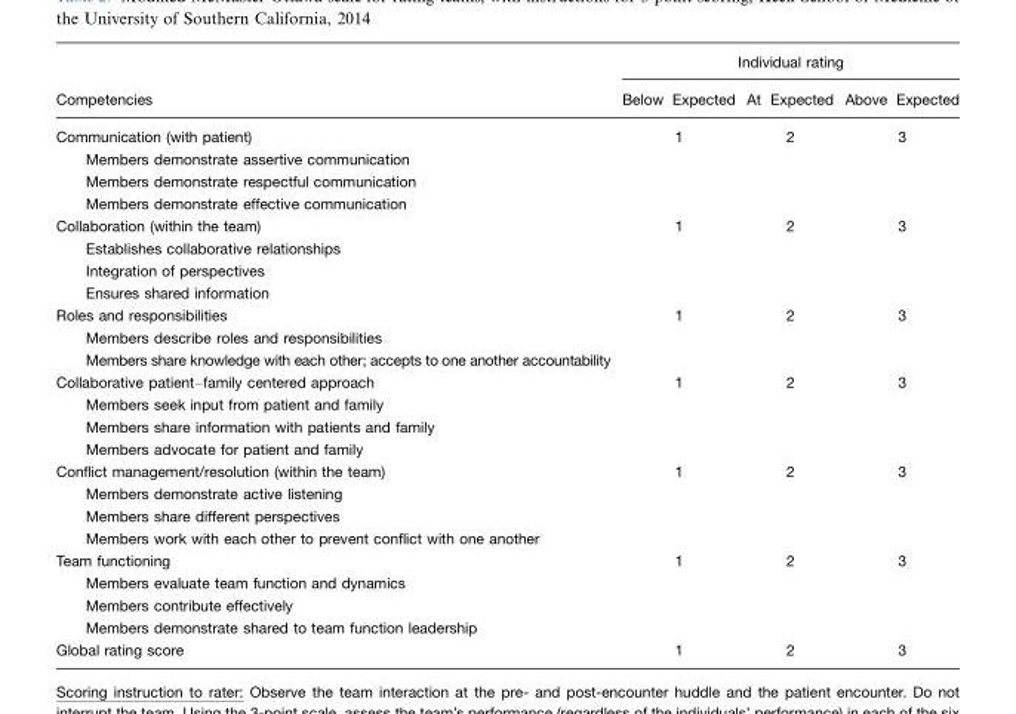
<table><thead><tr><td rowspan="2">Competencies</td><td colspan="3">Individual rating</td></tr><tr><td>Below Expected</td><td>At Expected</td><td>Above Expected</td></tr></thead><tbody><tr><td>Communication (with patient) Members demonstrate assertive communication Members demonstrate respectful communication Members demonstrate effective communication</td><td>1</td><td>2</td><td>3</td></tr><tr><td>Collaboration (within the team) Establishes collaborative relationships Integration of perspectives Ensures shared information</td><td>1</td><td>2</td><td>3</td></tr><tr><td>Roles and responsibilities Members describe roles and responsibilities Members share knowledge with each other; accepts to one another accountability</td><td>1</td><td>2</td><td>3</td></tr><tr><td>Collaborative patient–family centered approach Members seek input from patient and family Members share information with patients and family Members advocate for patient and family</td><td>1</td><td>2</td><td>3</td></tr><tr><td>Conflict management/resolution (within the team) Members demonstrate active listening Members share different perspectives Members work with each other to prevent conflict with one another</td><td>1</td><td>2</td><td>3</td></tr><tr><td>Team functioning Members evaluate team function and dynamics Members contribute effectively Members demonstrate shared to team function leadership</td><td>1</td><td>2</td><td>3</td></tr><tr><td>Global rating score</td><td>1</td><td>2</td><td>3</td></tr></tbody></table>